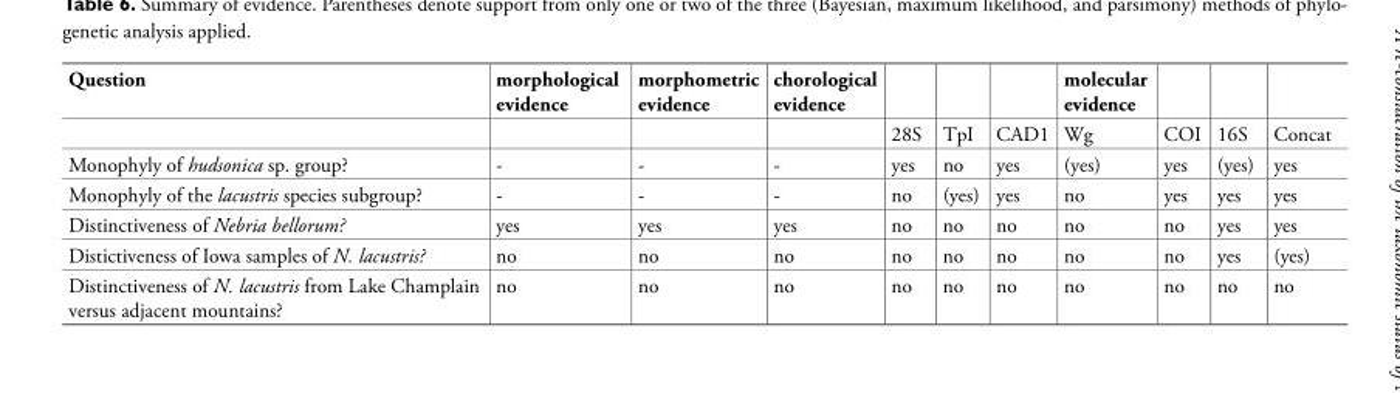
<table><tbody><tr><td rowspan="2">Question</td><td>morphological evidence</td><td>morphometric evidence</td><td>chorological evidence</td><td></td><td></td><td></td><td>molecular evidence</td><td></td><td></td><td></td></tr><tr><td></td><td></td><td></td><td>28S</td><td>TpI</td><td>CAD1</td><td>Wg</td><td>COI</td><td>16S</td><td>Concat</td></tr><tr><td>Monophyly of hudsonica sp. group?</td><td>-</td><td>-</td><td>-</td><td>yes</td><td>no</td><td>yes</td><td>(yes)</td><td>yes</td><td>(yes)</td><td>yes</td></tr><tr><td>Monophyly of the lacustris species subgroup?</td><td>-</td><td>-</td><td>-</td><td>no</td><td>(yes)</td><td>yes</td><td>no</td><td>yes</td><td>yes</td><td>yes</td></tr><tr><td>Distinctiveness of Nebria bellorum?</td><td>yes</td><td>yes</td><td>yes</td><td>no</td><td>no</td><td>no</td><td>no</td><td>no</td><td>yes</td><td>yes</td></tr><tr><td>Distictiveness of Iowa samples of N. lacustris?</td><td>no</td><td>no</td><td>no</td><td>no</td><td>no</td><td>no</td><td>no</td><td>no</td><td>yes</td><td>(yes)</td></tr><tr><td>Distinctiveness of N. lacustris from Lake Champlain versus adjacent mountains?</td><td>no</td><td>no</td><td>no</td><td>no</td><td>no</td><td>no</td><td>no</td><td>no</td><td>no</td><td>no</td></tr></tbody></table>